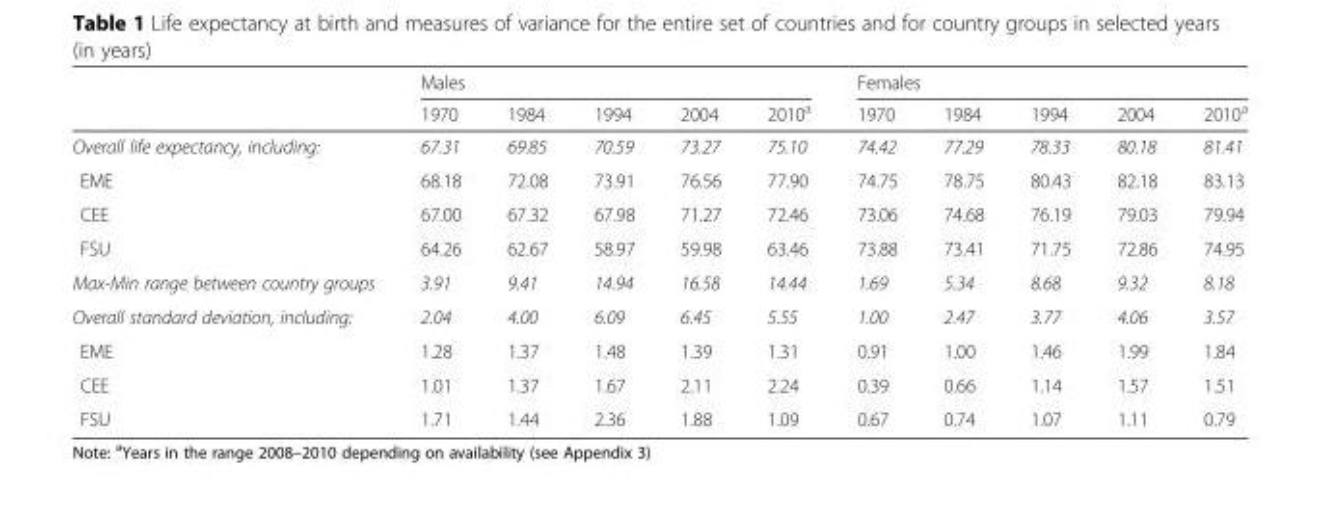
<table><thead><tr><td rowspan="2"></td><td colspan="5">Males</td><td colspan="5">Females</td></tr><tr><td>1970</td><td>1984</td><td>1994</td><td>2004</td><td>2010<sup>a</sup></td><td>1970</td><td>1984</td><td>1994</td><td>2004</td><td>2010<sup>a</sup></td></tr></thead><tbody><tr><td>Overall life expectancy, including:</td><td>67.31</td><td>69.85</td><td>70.59</td><td>73.27</td><td>75.10</td><td>74.42</td><td>77.29</td><td>78.33</td><td>80.18</td><td>81.41</td></tr><tr><td>EME</td><td>68.18</td><td>72.08</td><td>73.91</td><td>76.56</td><td>77.90</td><td>74.75</td><td>78.75</td><td>80.43</td><td>82.18</td><td>83.13</td></tr><tr><td>CEE</td><td>67.00</td><td>67.32</td><td>67.98</td><td>71.27</td><td>72.46</td><td>73.06</td><td>74.68</td><td>76.19</td><td>79.03</td><td>79.94</td></tr><tr><td>FSU</td><td>64.26</td><td>62.67</td><td>58.97</td><td>59.98</td><td>63.46</td><td>73.88</td><td>73.41</td><td>71.75</td><td>72.86</td><td>74.95</td></tr><tr><td>Max-Min range between country groups</td><td>3.91</td><td>9.41</td><td>14.94</td><td>16.58</td><td>14.44</td><td>1.69</td><td>5.34</td><td>8.68</td><td>9.32</td><td>8.18</td></tr><tr><td>Overall standard deviation, including:</td><td>2.04</td><td>4.00</td><td>6.09</td><td>6.45</td><td>5.55</td><td>1.00</td><td>2.47</td><td>3.77</td><td>4.06</td><td>3.57</td></tr><tr><td>EME</td><td>1.28</td><td>1.37</td><td>1.48</td><td>1.39</td><td>1.31</td><td>0.91</td><td>1.00</td><td>1.46</td><td>1.99</td><td>1.84</td></tr><tr><td>CEE</td><td>1.01</td><td>1.37</td><td>1.67</td><td>2.11</td><td>2.24</td><td>0.39</td><td>0.66</td><td>1.14</td><td>1.57</td><td>1.51</td></tr><tr><td>FSU</td><td>1.71</td><td>1.44</td><td>2.36</td><td>1.88</td><td>1.09</td><td>0.67</td><td>0.74</td><td>1.07</td><td>1.11</td><td>0.79</td></tr></tbody></table>